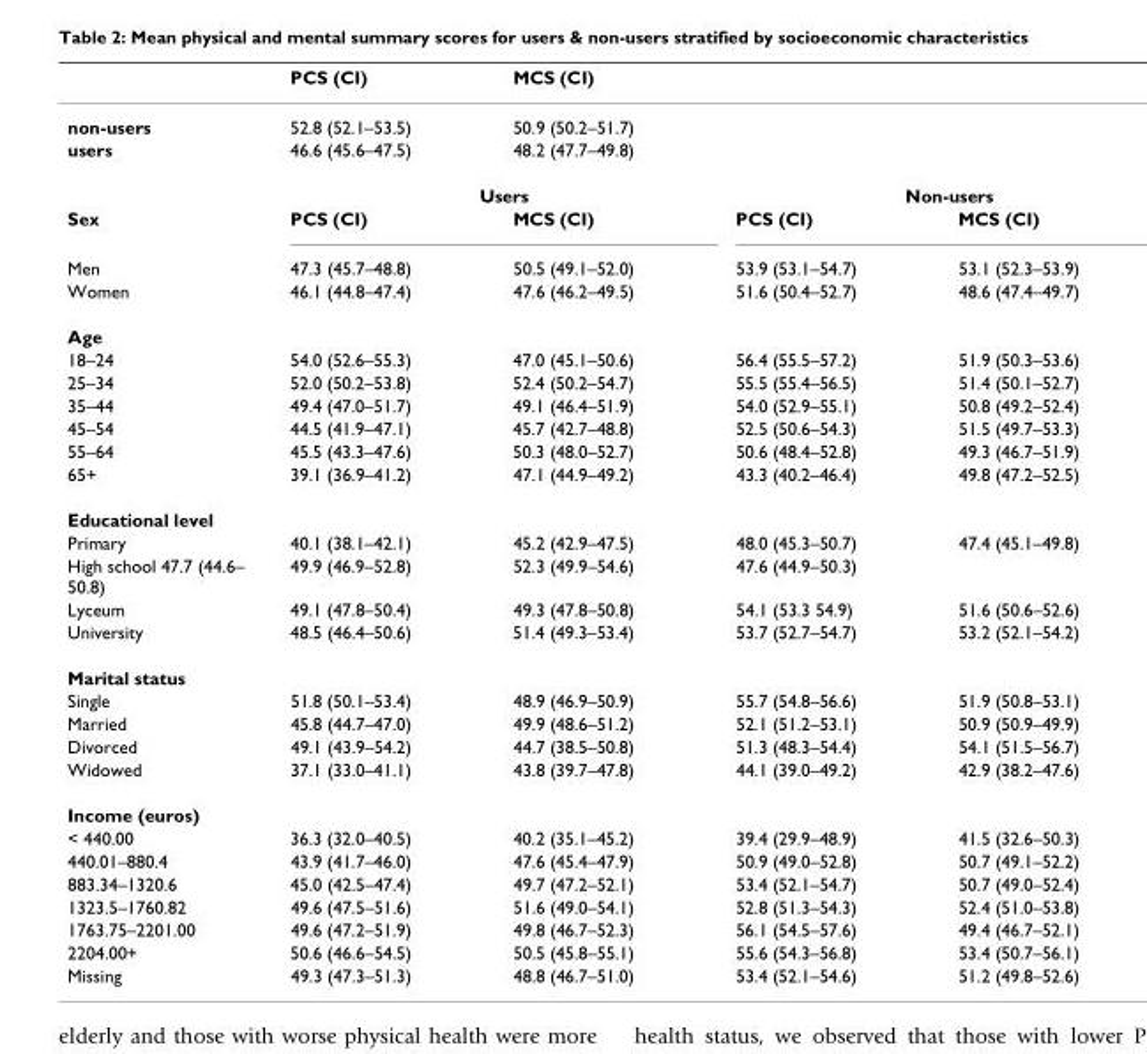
<table><thead><tr><td></td><td>PCS (CI)</td><td>MCS (CI)</td><td></td><td></td></tr></thead><tbody><tr><td>non-users</td><td>52.8 (52.1–53.5)</td><td>50.9 (50.2–51.7)</td><td></td><td></td></tr><tr><td rowspan="2">users</td><td>46.6 (45.6–47.5)</td><td>48.2 (47.7–49.8)</td><td></td><td></td></tr><tr><td colspan="2">Users</td><td colspan="2">Non-users</td></tr><tr><td>Sex</td><td>PCS (CI)</td><td>MCS (CI)</td><td>PCS (CI)</td><td>MCS (CI)</td></tr><tr><td>Men</td><td>47.3 (45.7–48.8)</td><td>50.5 (49.1–52.0)</td><td>53.9 (53.1–54.7)</td><td>53.1 (52.3–53.9)</td></tr><tr><td>Women</td><td>46.1 (44.8–47.4)</td><td>47.6 (46.2–49.5)</td><td>51.6 (50.4–52.7)</td><td>48.6 (47.4–49.7)</td></tr><tr><td colspan="5">Age</td></tr><tr><td>18–24</td><td>54.0 (52.6–55.3)</td><td>47.0 (45.1–50.6)</td><td>56.4 (55.5–57.2)</td><td>51.9 (50.3–53.6)</td></tr><tr><td>25–34</td><td>52.0 (50.2–53.8)</td><td>52.4 (50.2–54.7)</td><td>55.5 (55.4–56.5)</td><td>51.4 (50.1–52.7)</td></tr><tr><td>35–44</td><td>49.4 (47.0–51.7)</td><td>49.1 (46.4–51.9)</td><td>54.0 (52.9–55.1)</td><td>50.8 (49.2–52.4)</td></tr><tr><td>45–54</td><td>44.5 (41.9–47.1)</td><td>45.7 (42.7–48.8)</td><td>52.5 (50.6–54.3)</td><td>51.5 (49.7–53.3)</td></tr><tr><td>55–64</td><td>45.5 (43.3–47.6)</td><td>50.3 (48.0–52.7)</td><td>50.6 (48.4–52.8)</td><td>49.3 (46.7–51.9)</td></tr><tr><td>65+</td><td>39.1 (36.9–41.2)</td><td>47.1 (44.9–49.2)</td><td>43.3 (40.2–46.4)</td><td>49.8 (47.2–52.5)</td></tr><tr><td colspan="5">Educational level</td></tr><tr><td>Primary</td><td>40.1 (38.1–42.1)</td><td>45.2 (42.9–47.5)</td><td>48.0 (45.3–50.7)</td><td>47.4 (45.1–49.8)</td></tr><tr><td>High school 47.7 (44.6– 50.8)</td><td>49.9 (46.9–52.8)</td><td>52.3 (49.9–54.6)</td><td>47.6 (44.9–50.3)</td><td></td></tr><tr><td>Lyceum</td><td>49.1 (47.8–50.4)</td><td>49.3 (47.8–50.8)</td><td>54.1 (53.3 54.9)</td><td>51.6 (50.6–52.6)</td></tr><tr><td>University</td><td>48.5 (46.4–50.6)</td><td>51.4 (49.3–53.4)</td><td>53.7 (52.7–54.7)</td><td>53.2 (52.1–54.2)</td></tr><tr><td colspan="5">Marital status</td></tr><tr><td>Single</td><td>51.8 (50.1–53.4)</td><td>48.9 (46.9–50.9)</td><td>55.7 (54.8–56.6)</td><td>51.9 (50.8–53.1)</td></tr><tr><td>Married</td><td>45.8 (44.7–47.0)</td><td>49.9 (48.6–51.2)</td><td>52.1 (51.2–53.1)</td><td>50.9 (50.9–49.9)</td></tr><tr><td>Divorced</td><td>49.1 (43.9–54.2)</td><td>44.7 (38.5–50.8)</td><td>51.3 (48.3–54.4)</td><td>54.1 (51.5–56.7)</td></tr><tr><td>Widowed</td><td>37.1 (33.0–41.1)</td><td>43.8 (39.7–47.8)</td><td>44.1 (39.0–49.2)</td><td>42.9 (38.2–47.6)</td></tr><tr><td colspan="5">Income (euros)</td></tr><tr><td>&lt; 440.00</td><td>36.3 (32.0–40.5)</td><td>40.2 (35.1–45.2)</td><td>39.4 (29.9–48.9)</td><td>41.5 (32.6–50.3)</td></tr><tr><td>440.01–880.4</td><td>43.9 (41.7–46.0)</td><td>47.6 (45.4–47.9)</td><td>50.9 (49.0–52.8)</td><td>50.7 (49.1–52.2)</td></tr><tr><td>883.34–1320.6</td><td>45.0 (42.5–47.4)</td><td>49.7 (47.2–52.1)</td><td>53.4 (52.1–54.7)</td><td>50.7 (49.0–52.4)</td></tr><tr><td>1323.5–1760.82</td><td>49.6 (47.5–51.6)</td><td>51.6 (49.0–54.1)</td><td>52.8 (51.3–54.3)</td><td>52.4 (51.0–53.8)</td></tr><tr><td>1763.75–2201.00</td><td>49.6 (47.2–51.9)</td><td>49.8 (46.7–52.3)</td><td>56.1 (54.5–57.6)</td><td>49.4 (46.7–52.1)</td></tr><tr><td>2204.00+</td><td>50.6 (46.6–54.5)</td><td>50.5 (45.8–55.1)</td><td>55.6 (54.3–56.8)</td><td>53.4 (50.7–56.1)</td></tr><tr><td>Missing</td><td>49.3 (47.3–51.3)</td><td>48.8 (46.7–51.0)</td><td>53.4 (52.1–54.6)</td><td>51.2 (49.8–52.6)</td></tr></tbody></table>